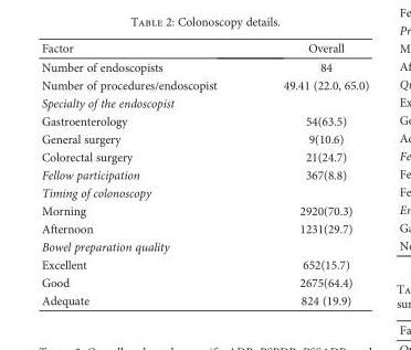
<table><thead><tr><td>Factor</td><td>Overall</td></tr></thead><tbody><tr><td>Number of endoscopists</td><td>84</td></tr><tr><td>Number of procedures/endoscopist</td><td>49.41 (22.0, 65.0)</td></tr><tr><td colspan="2">Specialty of the endoscopist</td></tr><tr><td>Gastroenterology</td><td>54(63.5)</td></tr><tr><td>General surgery</td><td>9(10.6)</td></tr><tr><td>Colorectal surgery</td><td>21(24.7)</td></tr><tr><td>Fellow participation</td><td>367(8.8)</td></tr><tr><td colspan="2">Timing of colonoscopy</td></tr><tr><td>Morning</td><td>2920(70.3)</td></tr><tr><td>Afternoon</td><td>1231(29.7)</td></tr><tr><td colspan="2">Bowel preparation quality</td></tr><tr><td>Excellent</td><td>652(15.7)</td></tr><tr><td>Good</td><td>2675(64.4)</td></tr><tr><td>Adequate</td><td>824 (19.9)</td></tr></tbody></table>